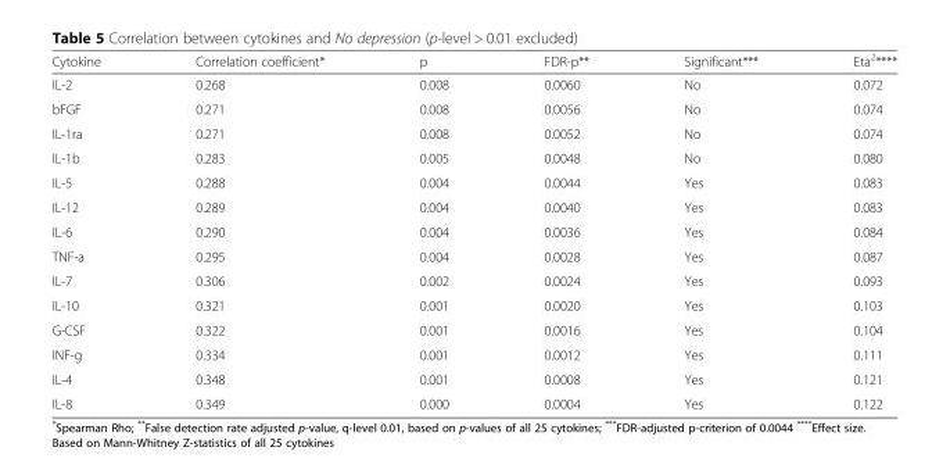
<table><thead><tr><td>Cytokine</td><td>Correlation coefficient*</td><td>p</td><td>FDR-p**</td><td>Significant***</td><td>Eta<sup>2</sup>****</td></tr></thead><tbody><tr><td>IL-2</td><td>0.268</td><td>0.008</td><td>0.0060</td><td>No</td><td>0.072</td></tr><tr><td>bFGF</td><td>0.271</td><td>0.008</td><td>0.0056</td><td>No</td><td>0.074</td></tr><tr><td>IL-1ra</td><td>0.271</td><td>0.008</td><td>0.0052</td><td>No</td><td>0.074</td></tr><tr><td>IL-1b</td><td>0.283</td><td>0.005</td><td>0.0048</td><td>No</td><td>0.080</td></tr><tr><td>IL-5</td><td>0.288</td><td>0.004</td><td>0.0044</td><td>Yes</td><td>0.083</td></tr><tr><td>IL-12</td><td>0.289</td><td>0.004</td><td>0.0040</td><td>Yes</td><td>0.083</td></tr><tr><td>IL-6</td><td>0.290</td><td>0.004</td><td>0.0036</td><td>Yes</td><td>0.084</td></tr><tr><td>TNF-a</td><td>0.295</td><td>0.004</td><td>0.0028</td><td>Yes</td><td>0.087</td></tr><tr><td>IL-7</td><td>0.306</td><td>0.002</td><td>0.0024</td><td>Yes</td><td>0.093</td></tr><tr><td>IL-10</td><td>0.321</td><td>0.001</td><td>0.0020</td><td>Yes</td><td>0.103</td></tr><tr><td>G-CSF</td><td>0.322</td><td>0.001</td><td>0.0016</td><td>Yes</td><td>0.104</td></tr><tr><td>INF-g</td><td>0.334</td><td>0.001</td><td>0.0012</td><td>Yes</td><td>0.111</td></tr><tr><td>IL-4</td><td>0.348</td><td>0.001</td><td>0.0008</td><td>Yes</td><td>0.121</td></tr><tr><td>IL-8</td><td>0.349</td><td>0.000</td><td>0.0004</td><td>Yes</td><td>0.122</td></tr></tbody></table>